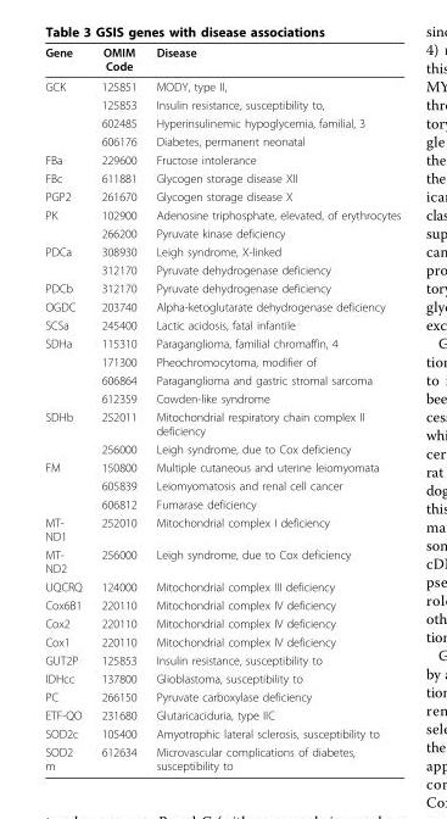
<table><thead><tr><td>Gene</td><td>OMIM Code</td><td>Disease</td></tr></thead><tbody><tr><td rowspan="4">GCK</td><td>125851</td><td>MODY, type II,</td></tr><tr><td>125853</td><td>Insulin resistance, susceptibility to,</td></tr><tr><td>602485</td><td>Hyperinsulinemic hypoglycemia, familial, 3</td></tr><tr><td>606176</td><td>Diabetes, permanent neonatal</td></tr><tr><td>FBa</td><td>229600</td><td>Fructose intolerance</td></tr><tr><td>FBc</td><td>611881</td><td>Glycogen storage disease XII</td></tr><tr><td>PGP2</td><td>261670</td><td>Glycogen storage disease X</td></tr><tr><td rowspan="2">PK</td><td>102900</td><td>Adenosine triphosphate, elevated, of erythrocytes</td></tr><tr><td>266200</td><td>Pyruvate kinase deficiency</td></tr><tr><td rowspan="2">PDCa</td><td>308930</td><td>Leigh syndrome, X-linked</td></tr><tr><td>312170</td><td>Pyruvate dehydrogenase deficiency</td></tr><tr><td>PDCb</td><td>312170</td><td>Pyruvate dehydrogenase deficiency</td></tr><tr><td>OGDC</td><td>203740</td><td>Alpha-ketoglutarate dehydrogenase deficiency</td></tr><tr><td>SCSa</td><td>245400</td><td>Lactic acidosis, fatal infantile</td></tr><tr><td rowspan="4">SDHa</td><td>115310</td><td>Paraganglioma, familial chromaffin, 4</td></tr><tr><td>171300</td><td>Pheochromocytoma, modifier of</td></tr><tr><td>606864</td><td>Paraganglioma and gastric stromal sarcoma</td></tr><tr><td>612359</td><td>Cowden-like syndrome</td></tr><tr><td rowspan="2">SDHb</td><td>252011</td><td>Mitochondrial respiratory chain complex II deficiency</td></tr><tr><td>256000</td><td>Leigh syndrome, due to Cox deficiency</td></tr><tr><td rowspan="3">FM</td><td>150800</td><td>Multiple cutaneous and uterine leiomyomata</td></tr><tr><td>605839</td><td>Leiomyomatosis and renal cell cancer</td></tr><tr><td>606812</td><td>Fumarase deficiency</td></tr><tr><td>MT- ND1</td><td>252010</td><td>Mitochondrial complex I deficiency</td></tr><tr><td>MT- ND2</td><td>256000</td><td>Leigh syndrome, due to Cox deficiency</td></tr><tr><td>UQCRQ</td><td>124000</td><td>Mitochondrial complex III deficiency</td></tr><tr><td>Cox6B1</td><td>220110</td><td>Mitochondrial complex IV deficiency</td></tr><tr><td>Cox2</td><td>220110</td><td>Mitochondrial complex IV deficiency</td></tr><tr><td>Cox1</td><td>220110</td><td>Mitochondrial complex IV deficiency</td></tr><tr><td>GUT2P</td><td>125853</td><td>Insulin resistance, susceptibility to</td></tr><tr><td>IDHcc</td><td>137800</td><td>Glioblastoma, susceptibility to</td></tr><tr><td>PC</td><td>266150</td><td>Pyruvate carboxylase deficiency</td></tr><tr><td>ETF-QO</td><td>231680</td><td>Glutaricaciduria, type IIC</td></tr><tr><td>SOD2c</td><td>105400</td><td>Amyotrophic lateral sclerosis, susceptibility to</td></tr><tr><td>SOD2 m</td><td>612634</td><td>Microvascular complications of diabetes, susceptibility to</td></tr></tbody></table>